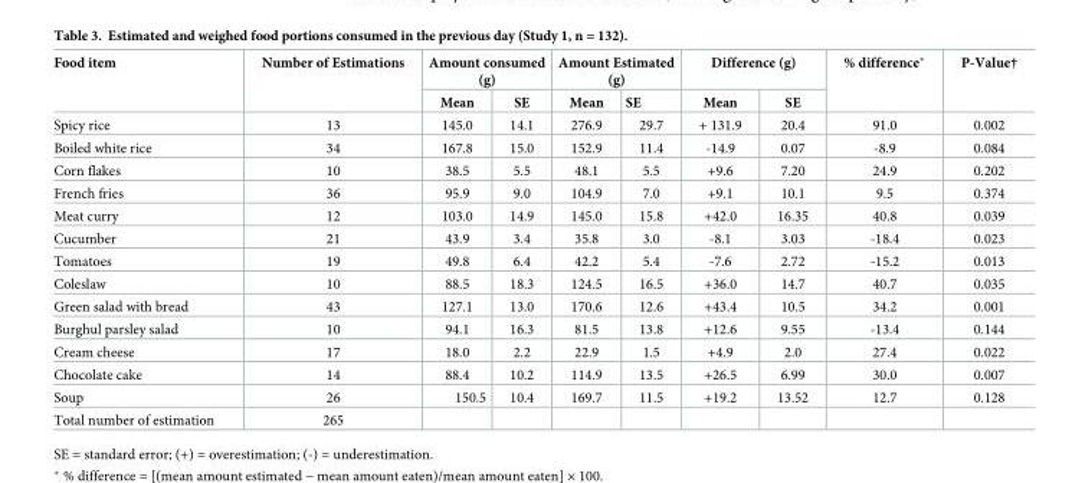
<table><thead><tr><td rowspan="2">Food item</td><td rowspan="2">Number of Estimations</td><td colspan="2">Amount consumed (g)</td><td colspan="2">Amount Estimated (g)</td><td colspan="2">Difference (g)</td><td rowspan="2">% difference*</td><td rowspan="2">P-Value†</td></tr><tr><td>Mean</td><td>SE</td><td>Mean</td><td>SE</td><td>Mean</td><td>SE</td></tr></thead><tbody><tr><td>Spicy rice</td><td>13</td><td>145.0</td><td>14.1</td><td>276.9</td><td>29.7</td><td>+ 131.9</td><td>20.4</td><td>91.0</td><td>0.002</td></tr><tr><td>Boiled white rice</td><td>34</td><td>167.8</td><td>15.0</td><td>152.9</td><td>11.4</td><td>-14.9</td><td>0.07</td><td>-8.9</td><td>0.084</td></tr><tr><td>Corn flakes</td><td>10</td><td>38.5</td><td>5.5</td><td>48.1</td><td>5.5</td><td>+9.6</td><td>7.20</td><td>24.9</td><td>0.202</td></tr><tr><td>French fries</td><td>36</td><td>95.9</td><td>9.0</td><td>104.9</td><td>7.0</td><td>+9.1</td><td>10.1</td><td>9.5</td><td>0.374</td></tr><tr><td>Meat curry</td><td>12</td><td>103.0</td><td>14.9</td><td>145.0</td><td>15.8</td><td>+42.0</td><td>16.35</td><td>40.8</td><td>0.039</td></tr><tr><td>Cucumber</td><td>21</td><td>43.9</td><td>3.4</td><td>35.8</td><td>3.0</td><td>-8.1</td><td>3.03</td><td>-18.4</td><td>0.023</td></tr><tr><td>Tomatoes</td><td>19</td><td>49.8</td><td>6.4</td><td>42.2</td><td>5.4</td><td>-7.6</td><td>2.72</td><td>-15.2</td><td>0.013</td></tr><tr><td>Coleslaw</td><td>10</td><td>88.5</td><td>18.3</td><td>124.5</td><td>16.5</td><td>+36.0</td><td>14.7</td><td>40.7</td><td>0.035</td></tr><tr><td>Green salad with bread</td><td>43</td><td>127.1</td><td>13.0</td><td>170.6</td><td>12.6</td><td>+43.4</td><td>10.5</td><td>34.2</td><td>0.001</td></tr><tr><td>Burghul parsley salad</td><td>10</td><td>94.1</td><td>16.3</td><td>81.5</td><td>13.8</td><td>+12.6</td><td>9.55</td><td>-13.4</td><td>0.144</td></tr><tr><td>Cream cheese</td><td>17</td><td>18.0</td><td>2.2</td><td>22.9</td><td>1.5</td><td>+4.9</td><td>2.0</td><td>27.4</td><td>0.022</td></tr><tr><td>Chocolate cake</td><td>14</td><td>88.4</td><td>10.2</td><td>114.9</td><td>13.5</td><td>+26.5</td><td>6.99</td><td>30.0</td><td>0.007</td></tr><tr><td>Soup</td><td>26</td><td>150.5</td><td>10.4</td><td>169.7</td><td>11.5</td><td>+19.2</td><td>13.52</td><td>12.7</td><td>0.128</td></tr><tr><td>Total number of estimation</td><td>265</td><td></td><td></td><td></td><td></td><td></td><td></td><td></td><td></td></tr></tbody></table>